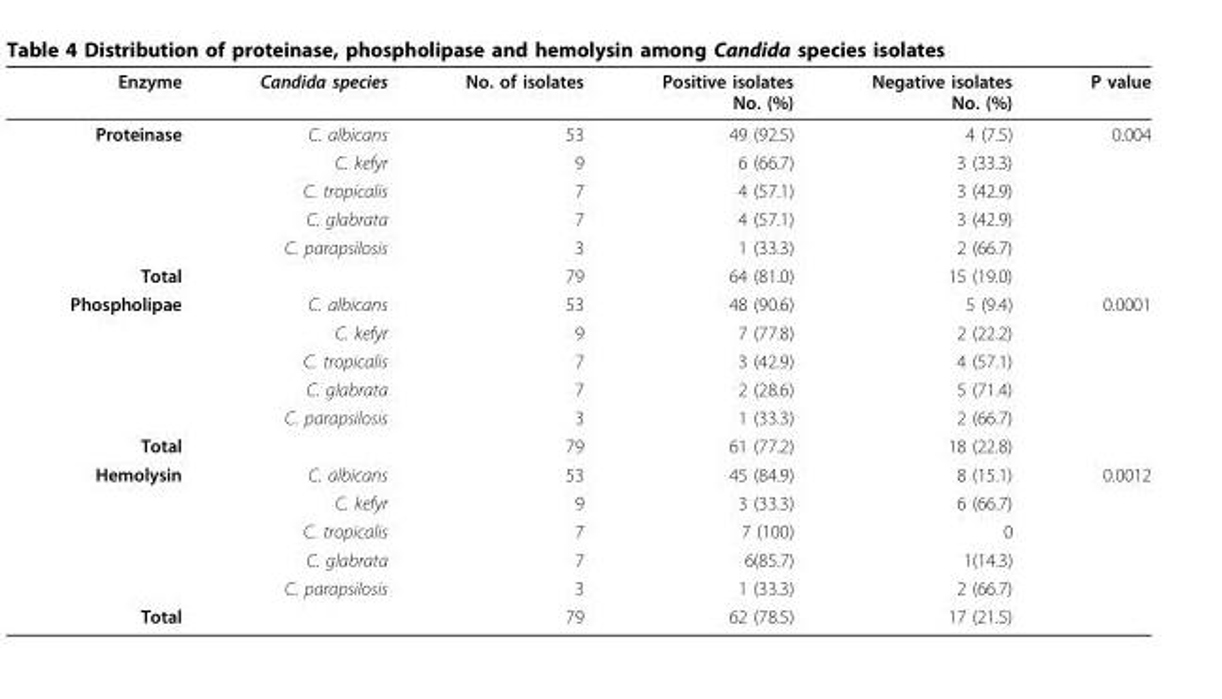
<table><thead><tr><td>Enzyme</td><td>Candida species</td><td>No. of isolates</td><td>Positive isolates No. (%)</td><td>Negative isolates No. (%)</td><td>P value</td></tr></thead><tbody><tr><td rowspan="5">Proteinase</td><td>C. albicans</td><td>53</td><td>49 (92.5)</td><td>4 (7.5)</td><td>0.004</td></tr><tr><td>C. kefyr</td><td>9</td><td>6 (66.7)</td><td>3 (33.3)</td><td></td></tr><tr><td>C. tropicalis</td><td>7</td><td>4 (57.1)</td><td>3 (42.9)</td><td></td></tr><tr><td>C. glabrata</td><td>7</td><td>4 (57.1)</td><td>3 (42.9)</td><td></td></tr><tr><td>C. parapsilosis</td><td>3</td><td>1 (33.3)</td><td>2 (66.7)</td><td></td></tr><tr><td>Total</td><td></td><td>79</td><td>64 (81.0)</td><td>15 (19.0)</td><td></td></tr><tr><td rowspan="5">Phospholipae</td><td>C. albicans</td><td>53</td><td>48 (90.6)</td><td>5 (9.4)</td><td>0.0001</td></tr><tr><td>C. kefyr</td><td>9</td><td>7 (77.8)</td><td>2 (22.2)</td><td></td></tr><tr><td>C. tropicalis</td><td>7</td><td>3 (42.9)</td><td>4 (57.1)</td><td></td></tr><tr><td>C. glabrata</td><td>7</td><td>2 (28.6)</td><td>5 (71.4)</td><td></td></tr><tr><td>C. parapsilosis</td><td>3</td><td>1 (33.3)</td><td>2 (66.7)</td><td></td></tr><tr><td>Total</td><td></td><td>79</td><td>61 (77.2)</td><td>18 (22.8)</td><td></td></tr><tr><td rowspan="5">Hemolysin</td><td>C. albicans</td><td>53</td><td>45 (84.9)</td><td>8 (15.1)</td><td>0.0012</td></tr><tr><td>C. kefyr</td><td>9</td><td>3 (33.3)</td><td>6 (66.7)</td><td></td></tr><tr><td>C. tropicalis</td><td>7</td><td>7 (100)</td><td>0</td><td></td></tr><tr><td>C. glabrata</td><td>7</td><td>6(85.7)</td><td>1(14.3)</td><td></td></tr><tr><td>C. parapsilosis</td><td>3</td><td>1 (33.3)</td><td>2 (66.7)</td><td></td></tr><tr><td>Total</td><td></td><td>79</td><td>62 (78.5)</td><td>17 (21.5)</td><td></td></tr></tbody></table>